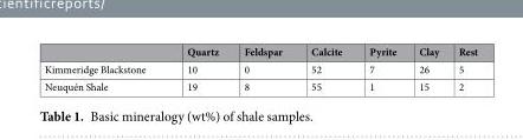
<table><thead><tr><td></td><td>Quartz</td><td>Feldspar</td><td>Calcite</td><td>Pyrite</td><td>Clay</td><td>Rest</td></tr></thead><tbody><tr><td>Kimmeridge Blackstone</td><td>10</td><td>0</td><td>52</td><td>7</td><td>26</td><td>5</td></tr><tr><td>Neuquén Shale</td><td>19</td><td>8</td><td>55</td><td>1</td><td>15</td><td>2</td></tr></tbody></table>